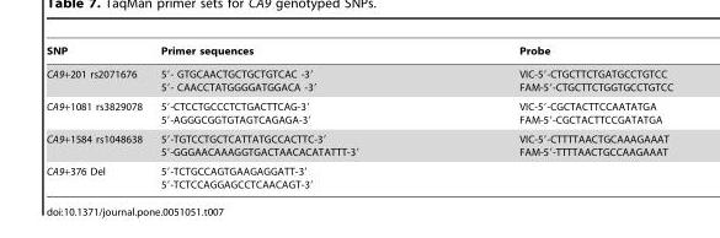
<table><thead><tr><td>SNP</td><td>Primer sequences</td><td>Probe</td></tr></thead><tbody><tr><td>CA9+201 rs2071676</td><td>5′- GTGCAACTGCTGCTGTCAC -3′ 5′- CAACCTATGGGGATGGACA -3′</td><td>VIC-5′-CTGCTTCTGATGCCTGTCC FAM-5′-CTGCTTCTGGTGCCTGTCC</td></tr><tr><td>CA9+1081 rs3829078</td><td>5′-CTCCTGCCCTCTGACTTCAG-3′ 5′-AGGGCGGTGTAGTCAGAGA-3′</td><td>VIC-5′-CGCTACTTCCAATATGA FAM-5′-CGCTACTTCCGATATGA</td></tr><tr><td>CA9+1584 rs1048638</td><td>5′-TGTCCTGCTCATTATGCCACTTC-3′ 5′-GGGAACAAAGGTGACTAACACATATTT-3′</td><td>VIC-5′-CTTTTAACTGCAAAGAAAT FAM-5′-TTTTAACTGCCAAGAAAT</td></tr><tr><td>CA9+376 Del</td><td>5′-TCTGCCAGTGAAGAGGATT-3′ 5′-TCTCCAGGAGCCTCAACAGT-3′</td><td></td></tr></tbody></table>